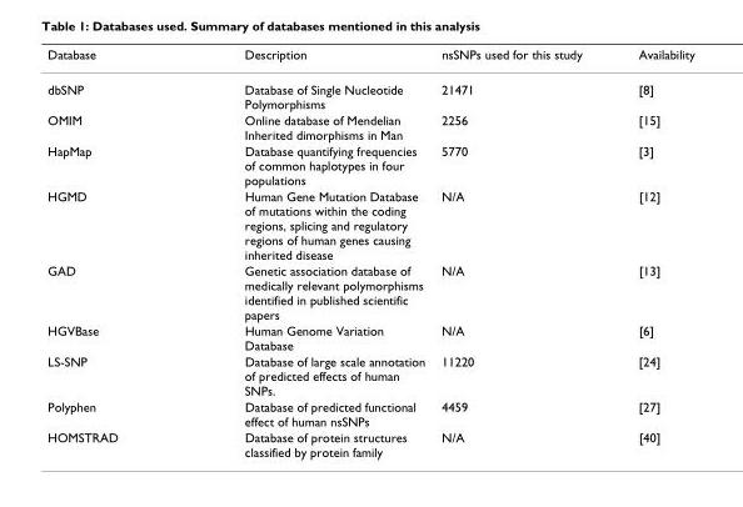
<table><thead><tr><td>Database</td><td>Description</td><td>nsSNPs used for this study</td><td>Availability</td></tr></thead><tbody><tr><td>dbSNP</td><td>Database of Single Nucleotide Polymorphisms</td><td>21471</td><td>[8]</td></tr><tr><td>OMIM</td><td>Online database of Mendelian Inherited dimorphisms in Man</td><td>2256</td><td>[15]</td></tr><tr><td>HapMap</td><td>Database quantifying frequencies of common haplotypes in four populations</td><td>5770</td><td>[3]</td></tr><tr><td>HGMD</td><td>Human Gene Mutation Database of mutations within the coding regions, splicing and regulatory regions of human genes causing inherited disease</td><td>N/A</td><td>[12]</td></tr><tr><td>GAD</td><td>Genetic association database of medically relevant polymorphisms identified in published scientific papers</td><td>N/A</td><td>[13]</td></tr><tr><td>HGVBase</td><td>Human Genome Variation Database</td><td>N/A</td><td>[6]</td></tr><tr><td>LS-SNP</td><td>Database of large scale annotation of predicted effects of human SNPs.</td><td>11220</td><td>[24]</td></tr><tr><td>Polyphen</td><td>Database of predicted functional effect of human nsSNPs</td><td>4459</td><td>[27]</td></tr><tr><td>HOMSTRAD</td><td>Database of protein structures classified by protein family</td><td>N/A</td><td>[40]</td></tr></tbody></table>